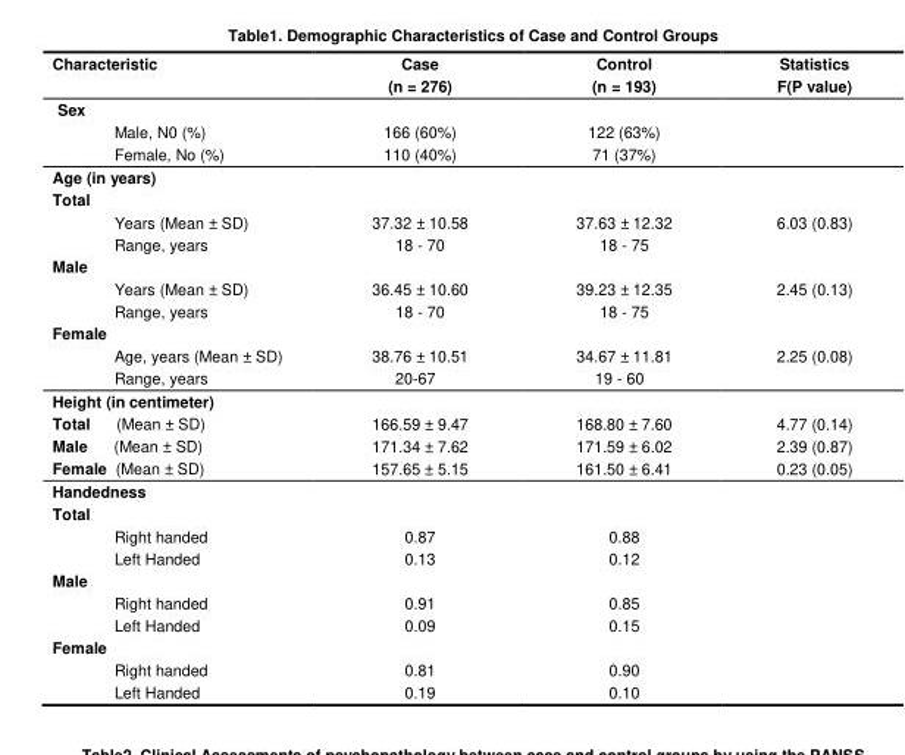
<table><thead><tr><td>Characteristic</td><td>Case (n = 276)</td><td>Control (n = 193)</td><td>Statistics F(P value)</td></tr></thead><tbody><tr><td colspan="4">Sex</td></tr><tr><td>Male, N0 (%)‎</td><td>166 (60%)</td><td>122 (63%)</td><td></td></tr><tr><td>Female, No (%)‎</td><td>110 (40%)</td><td>71 (37%)</td><td></td></tr><tr><td colspan="4">Age (in years)</td></tr><tr><td colspan="4">Total</td></tr><tr><td>Years (Mean ± SD)</td><td>37.32 ± 10.58</td><td>37.63 ± 12.32</td><td>6.03 (0.83)</td></tr><tr><td>Range, years</td><td>18 - 70</td><td>18 - 75</td><td></td></tr><tr><td colspan="4">Male</td></tr><tr><td>Years (Mean ± SD)</td><td>36.45 ± 10.60</td><td>39.23 ± 12.35</td><td>2.45 (0.13)</td></tr><tr><td>Range, years</td><td>18 - 70</td><td>18 - 75</td><td></td></tr><tr><td colspan="4">Female</td></tr><tr><td>Age, years (Mean ± SD)</td><td>38.76 ± 10.51</td><td>34.67 ± 11.81</td><td>2.25 (0.08)</td></tr><tr><td>Range, years</td><td>20-67</td><td>19 - 60</td><td></td></tr><tr><td colspan="4">Height (in centimeter)</td></tr><tr><td>Total (Mean ± SD)</td><td>166.59 ± 9.47</td><td>168.80 ± 7.60</td><td>4.77 (0.14)</td></tr><tr><td>Male (Mean ± SD)</td><td>171.34 ± 7.62</td><td>171.59 ± 6.02</td><td>2.39 (0.87)</td></tr><tr><td>Female (Mean ± SD)</td><td>157.65 ± 5.15</td><td>161.50 ± 6.41</td><td>0.23 (0.05)</td></tr><tr><td colspan="4">Handedness</td></tr><tr><td colspan="4">Total</td></tr><tr><td>Right handed‎</td><td>‎0.87</td><td>‎0.88‎</td><td></td></tr><tr><td>Left Handed</td><td>0.13</td><td>0.12</td><td></td></tr><tr><td colspan="4">‎Male</td></tr><tr><td>Right handed</td><td>0.91</td><td>0.85</td><td></td></tr><tr><td>Left Handed</td><td>0.09</td><td>0.15</td><td></td></tr><tr><td colspan="4">Female</td></tr><tr><td>‎Right handed</td><td>0.81</td><td>0.90</td><td></td></tr><tr><td>Left Handed</td><td>0.19</td><td>0.10</td><td></td></tr></tbody></table>